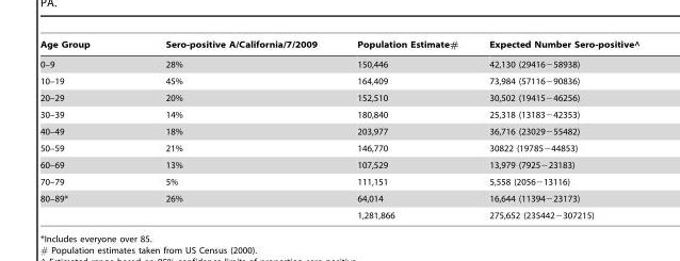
<table><thead><tr><td>Age Group</td><td>Sero-positive A/California/7/2009</td><td>Population Estimate#</td><td>Expected Number Sero-positive^</td></tr></thead><tbody><tr><td>0–9</td><td>28%</td><td>150,446</td><td>42,130 (29416−58938)</td></tr><tr><td>10–19</td><td>45%</td><td>164,409</td><td>73,984 (57116−90836)</td></tr><tr><td>20–29</td><td>20%</td><td>152,510</td><td>30,502 (19415−46256)</td></tr><tr><td>30–39</td><td>14%</td><td>180,840</td><td>25,318 (13183−42353)</td></tr><tr><td>40–49</td><td>18%</td><td>203,977</td><td>36,716 (23029−55482)</td></tr><tr><td>50–59</td><td>21%</td><td>146,770</td><td>30822 (19785−44853)</td></tr><tr><td>60–69</td><td>13%</td><td>107,529</td><td>13,979 (7925−23183)</td></tr><tr><td>70–79</td><td>5%</td><td>111,151</td><td>5,558 (2056−13116)</td></tr><tr><td rowspan="2">80–89*</td><td>26%</td><td>64,014</td><td>16,644 (11394−23173)</td></tr><tr><td></td><td>1,281,866</td><td>275,652 (235442−307215)</td></tr></tbody></table>